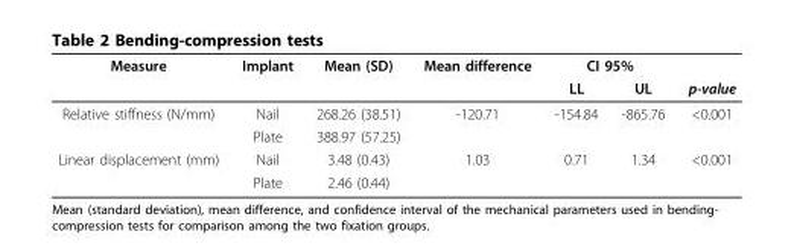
<table><thead><tr><td rowspan="2">Measure</td><td rowspan="2">Implant</td><td rowspan="2">Mean (SD)</td><td rowspan="2">Mean difference</td><td colspan="2">CI 95%</td><td rowspan="2">p-value</td></tr><tr><td>LL</td><td>UL</td></tr></thead><tbody><tr><td rowspan="2">Relative stiffness (N/mm)</td><td>Nail</td><td>268.26 (38.51)</td><td>-120.71</td><td>-154.84</td><td>-865.76</td><td>&lt;0.001</td></tr><tr><td>Plate</td><td>388.97 (57.25)</td><td></td><td></td><td></td><td></td></tr><tr><td rowspan="2">Linear displacement (mm)</td><td>Nail</td><td>3.48 (0.43)</td><td>1.03</td><td>0.71</td><td>1.34</td><td>&lt;0.001</td></tr><tr><td>Plate</td><td>2.46 (0.44)</td><td></td><td></td><td></td><td></td></tr></tbody></table>